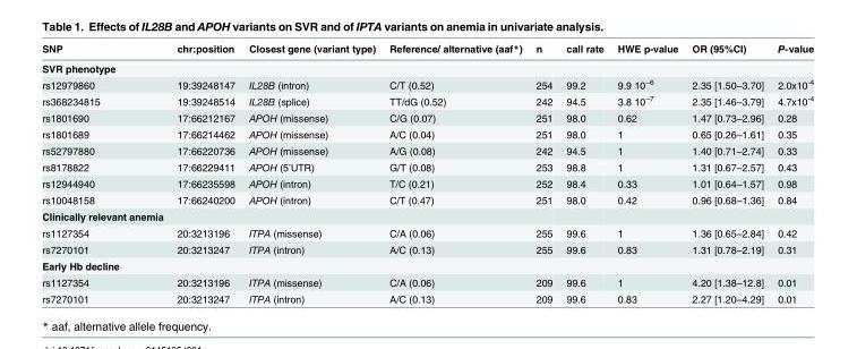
<table><thead><tr><td>SNP</td><td>chr:position</td><td>Closest gene (variant type)</td><td>Reference/ alternative (aaf*)</td><td>n</td><td>call rate</td><td>HWE p-value</td><td>OR (95%CI)</td><td>P-value</td></tr></thead><tbody><tr><td colspan="9">SVR phenotype</td></tr><tr><td>rs12979860</td><td>19:39248147</td><td>IL28B (intron)</td><td>C/T (0.52)</td><td>254</td><td>99.2</td><td>9.9 10<sup>−6</sup></td><td>2.35 [1.50–3.70]</td><td>2.0x10<sup>-4</sup></td></tr><tr><td>rs368234815</td><td>19:39248514</td><td>IL28B (splice)</td><td>TT/dG (0.52)</td><td>242</td><td>94.5</td><td>3.8 10<sup>−7</sup></td><td>2.35 [1.46–3.79]</td><td>4.7x10<sup>-4</sup></td></tr><tr><td>rs1801690</td><td>17:66212167</td><td>APOH (missense)</td><td>C/G (0.07)</td><td>251</td><td>98.0</td><td>0.62</td><td>1.47 [0.73–2.96]</td><td>0.28</td></tr><tr><td>rs1801689</td><td>17:66214462</td><td>APOH (missense)</td><td>A/C (0.04)</td><td>251</td><td>98.0</td><td>1</td><td>0.65 [0.26–1.61]</td><td>0.35</td></tr><tr><td>rs52797880</td><td>17:66220736</td><td>APOH (missense)</td><td>A/G (0.08)</td><td>242</td><td>94.5</td><td>1</td><td>1.40 [0.71–2.74]</td><td>0.33</td></tr><tr><td>rs8178822</td><td>17:66229411</td><td>APOH (5’UTR)</td><td>G/T (0.08)</td><td>253</td><td>98.8</td><td>1</td><td>1.31 [0.67–2.57]</td><td>0.43</td></tr><tr><td>rs12944940</td><td>17:66235598</td><td>APOH (intron)</td><td>T/C (0.21)</td><td>252</td><td>98.4</td><td>0.33</td><td>1.01 [0.64–1.57]</td><td>0.98</td></tr><tr><td>rs10048158</td><td>17:66240200</td><td>APOH (intron)</td><td>C/T (0.47)</td><td>251</td><td>98.0</td><td>0.42</td><td>0.96 [0.68–1.36]</td><td>0.84</td></tr><tr><td colspan="9">Clinically relevant anemia</td></tr><tr><td>rs1127354</td><td>20:3213196</td><td>ITPA (missense)</td><td>C/A (0.06)</td><td>255</td><td>99.6</td><td>1</td><td>1.36 [0.65–2.84]</td><td>0.42</td></tr><tr><td>rs7270101</td><td>20:3213247</td><td>ITPA (intron)</td><td>A/C (0.13)</td><td>255</td><td>99.6</td><td>0.83</td><td>1.31 [0.78–2.19]</td><td>0.31</td></tr><tr><td colspan="9">Early Hb decline</td></tr><tr><td>rs1127354</td><td>20:3213196</td><td>ITPA (missense)</td><td>C/A (0.06)</td><td>209</td><td>99.6</td><td>1</td><td>4.20 [1.38–12.8]</td><td>0.01</td></tr><tr><td>rs7270101</td><td>20:3213247</td><td>ITPA (intron)</td><td>A/C (0.13)</td><td>209</td><td>99.6</td><td>0.83</td><td>2.27 [1.20–4.29]</td><td>0.01</td></tr></tbody></table>